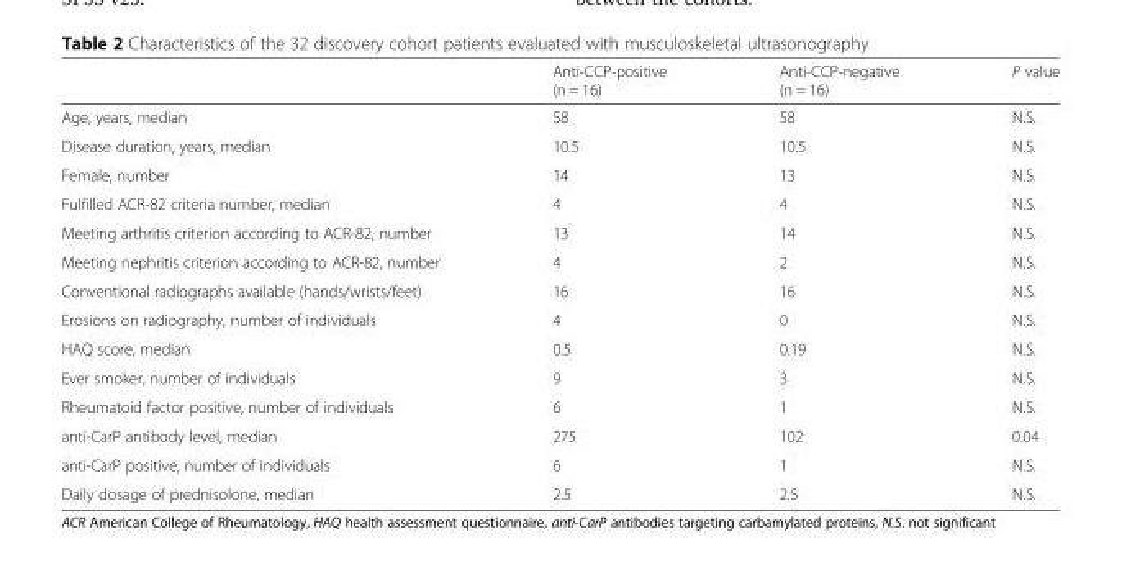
<table><thead><tr><td></td><td>Anti-CCP-positive (n = 16)</td><td>Anti-CCP-negative (n = 16)</td><td>P value</td></tr></thead><tbody><tr><td>Age, years, median</td><td>58</td><td>58</td><td>N.S.</td></tr><tr><td>Disease duration, years, median</td><td>10.5</td><td>10.5</td><td>N.S.</td></tr><tr><td>Female, number</td><td>14</td><td>13</td><td>N.S.</td></tr><tr><td>Fulfilled ACR-82 criteria number, median</td><td>4</td><td>4</td><td>N.S.</td></tr><tr><td>Meeting arthritis criterion according to ACR-82, number</td><td>13</td><td>14</td><td>N.S.</td></tr><tr><td>Meeting nephritis criterion according to ACR-82, number</td><td>4</td><td>2</td><td>N.S.</td></tr><tr><td>Conventional radiographs available (hands/wrists/feet)</td><td>16</td><td>16</td><td>N.S.</td></tr><tr><td>Erosions on radiography, number of individuals</td><td>4</td><td>0</td><td>N.S.</td></tr><tr><td>HAQ score, median</td><td>0.5</td><td>0.19</td><td>N.S.</td></tr><tr><td>Ever smoker, number of individuals</td><td>9</td><td>3</td><td>N.S.</td></tr><tr><td>Rheumatoid factor positive, number of individuals</td><td>6</td><td>1</td><td>N.S.</td></tr><tr><td>anti-CarP antibody level, median</td><td>275</td><td>102</td><td>0.04</td></tr><tr><td>anti-CarP positive, number of individuals</td><td>6</td><td>1</td><td>N.S.</td></tr><tr><td>Daily dosage of prednisolone, median</td><td>2.5</td><td>2.5</td><td>N.S.</td></tr></tbody></table>